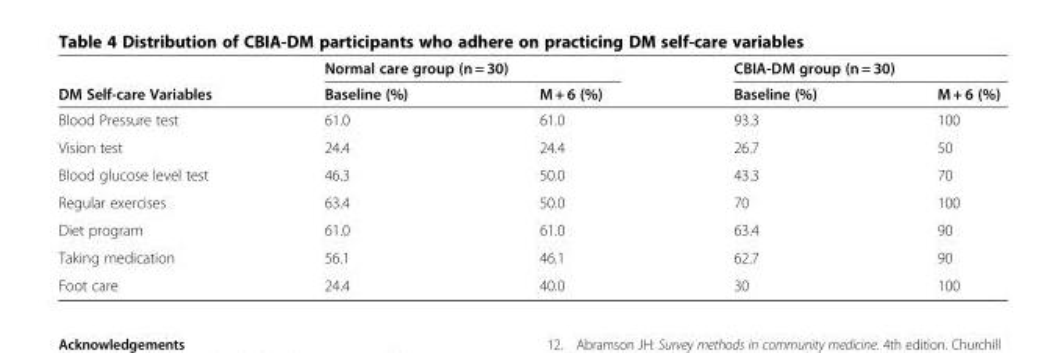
<table><thead><tr><td rowspan="2">DM Self-care Variables</td><td colspan="2">Normal care group (n = 30)</td><td colspan="2">CBIA-DM group (n = 30)</td></tr><tr><td>Baseline (%)</td><td>M + 6 (%)</td><td>Baseline (%)</td><td>M + 6 (%)</td></tr></thead><tbody><tr><td>Blood Pressure test</td><td>61.0</td><td>61.0</td><td>93.3</td><td>100</td></tr><tr><td>Vision test</td><td>24.4</td><td>24.4</td><td>26.7</td><td>50</td></tr><tr><td>Blood glucose level test</td><td>46.3</td><td>50.0</td><td>43.3</td><td>70</td></tr><tr><td>Regular exercises</td><td>63.4</td><td>50.0</td><td>70</td><td>100</td></tr><tr><td>Diet program</td><td>61.0</td><td>61.0</td><td>63.4</td><td>90</td></tr><tr><td>Taking medication</td><td>56.1</td><td>46.1</td><td>62.7</td><td>90</td></tr><tr><td>Foot care</td><td>24.4</td><td>40.0</td><td>30</td><td>100</td></tr></tbody></table>